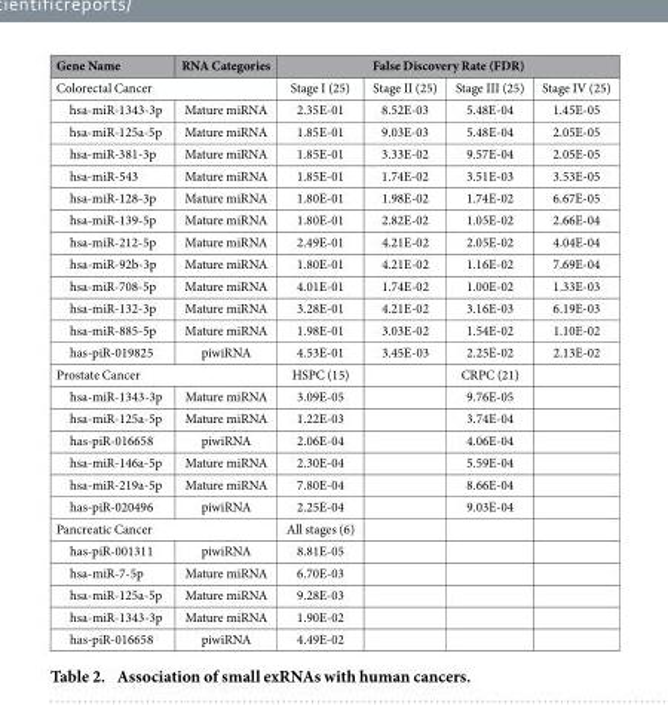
<table><thead><tr><td>Gene Name</td><td>RNA Categories</td><td colspan="4">False Discovery Rate (FDR)</td></tr><tr><td colspan="2">Colorectal Cancer</td><td>Stage I (25)</td><td>Stage II (25)</td><td>Stage III (25)</td><td>Stage IV (25)</td></tr></thead><tbody><tr><td>hsa-miR-1343-3p</td><td>Mature miRNA</td><td>2.35E-01</td><td>8.52E-03</td><td>5.48E-04</td><td>1.45E-05</td></tr><tr><td>hsa-miR-125a-5p</td><td>Mature miRNA</td><td>1.85E-01</td><td>9.03E-03</td><td>5.48E-04</td><td>2.05E-05</td></tr><tr><td>hsa-miR-381-3p</td><td>Mature miRNA</td><td>1.85E-01</td><td>3.33E-02</td><td>9.57E-04</td><td>2.05E-05</td></tr><tr><td>hsa-miR-543</td><td>Mature miRNA</td><td>1.85E-01</td><td>1.74E-02</td><td>3.51E-03</td><td>3.53E-05</td></tr><tr><td>hsa-miR-128-3p</td><td>Mature miRNA</td><td>1.80E-01</td><td>1.98E-02</td><td>1.74E-02</td><td>6.67E-05</td></tr><tr><td>hsa-miR-139-5p</td><td>Mature miRNA</td><td>1.80E-01</td><td>2.82E-02</td><td>1.05E-02</td><td>2.66E-04</td></tr><tr><td>hsa-miR-212-5p</td><td>Mature miRNA</td><td>2.49E-01</td><td>4.21E-02</td><td>2.05E-02</td><td>4.04E-04</td></tr><tr><td>hsa-miR-92b-3p</td><td>Mature miRNA</td><td>1.80E-01</td><td>4.21E-02</td><td>1.16E-02</td><td>7.69E-04</td></tr><tr><td>hsa-miR-708-5p</td><td>Mature miRNA</td><td>4.01E-01</td><td>1.74E-02</td><td>1.00E-02</td><td>1.33E-03</td></tr><tr><td>hsa-miR-132-3p</td><td>Mature miRNA</td><td>3.28E-01</td><td>4.21E-02</td><td>3.16E-03</td><td>6.19E-03</td></tr><tr><td>hsa-miR-885-5p</td><td>Mature miRNA</td><td>1.98E-01</td><td>3.03E-02</td><td>1.54E-02</td><td>1.10E-02</td></tr><tr><td>has-piR-019825</td><td>piwiRNA</td><td>4.53E-01</td><td>3.45E-03</td><td>2.25E-02</td><td>2.13E-02</td></tr><tr><td colspan="2">Prostate Cancer</td><td>HSPC (15)</td><td></td><td>CRPC (21)</td><td></td></tr><tr><td>hsa-miR-1343-3p</td><td>Mature miRNA</td><td>3.09E-05</td><td></td><td>9.76E-05</td><td></td></tr><tr><td>hsa-miR-125a-5p</td><td>Mature miRNA</td><td>1.22E-03</td><td></td><td>3.74E-04</td><td></td></tr><tr><td>has-piR-016658</td><td>piwiRNA</td><td>2.06E-04</td><td></td><td>4.06E-04</td><td></td></tr><tr><td>hsa-miR-146a-5p</td><td>Mature miRNA</td><td>2.30E-04</td><td></td><td>5.59E-04</td><td></td></tr><tr><td>hsa-miR-219a-5p</td><td>Mature miRNA</td><td>7.80E-04</td><td></td><td>8.66E-04</td><td></td></tr><tr><td>has-piR-020496</td><td>piwiRNA</td><td>2.25E-04</td><td></td><td>9.03E-04</td><td></td></tr><tr><td colspan="2">Pancreatic Cancer</td><td>All stages (6)</td><td></td><td></td><td></td></tr><tr><td>has-piR-001311</td><td>piwiRNA</td><td>8.81E-05</td><td></td><td></td><td></td></tr><tr><td>hsa-miR-7-5p</td><td>Mature miRNA</td><td>6.70E-03</td><td></td><td></td><td></td></tr><tr><td>hsa-miR-125a-5p</td><td>Mature miRNA</td><td>9.28E-03</td><td></td><td></td><td></td></tr><tr><td>hsa-miR-1343-3p</td><td>Mature miRNA</td><td>1.90E-02</td><td></td><td></td><td></td></tr><tr><td>has-piR-016658</td><td>piwiRNA</td><td>4.49E-02</td><td></td><td></td><td></td></tr></tbody></table>